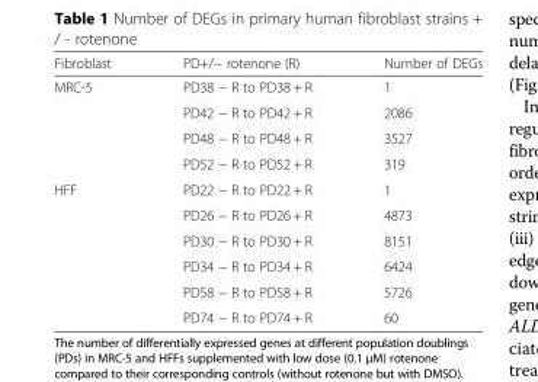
<table><thead><tr><td>Fibroblast</td><td>PD+/− rotenone (R)</td><td>Number of DEGs</td></tr></thead><tbody><tr><td rowspan="4">MRC-5</td><td>PD38 − R to PD38 + R</td><td>1</td></tr><tr><td>PD42 − R to PD42 + R</td><td>2086</td></tr><tr><td>PD48 − R to PD48 + R</td><td>3527</td></tr><tr><td>PD52 − R to PD52 + R</td><td>319</td></tr><tr><td rowspan="6">HFF</td><td>PD22 − R to PD22 + R</td><td>1</td></tr><tr><td>PD26 − R to PD26 + R</td><td>4873</td></tr><tr><td>PD30 − R to PD30 + R</td><td>8151</td></tr><tr><td>PD34 − R to PD34 + R</td><td>6424</td></tr><tr><td>PD58 − R to PD58 + R</td><td>5726</td></tr><tr><td>PD74 − R to PD74 + R</td><td>60</td></tr></tbody></table>